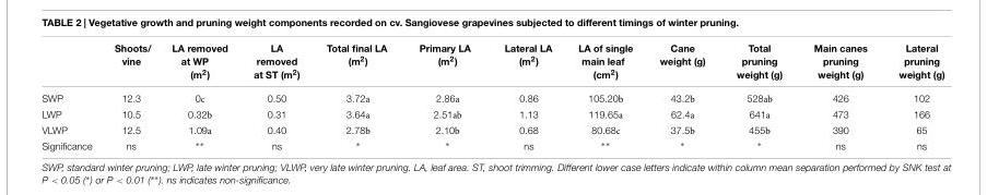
<table><thead><tr><td></td><td>Shoots/ vine</td><td>LA removed at WP (m<sup>2</sup>)</td><td>LA removed at ST (m<sup>2</sup>)</td><td>Total final LA (m<sup>2</sup>)</td><td>Primary LA (m<sup>2</sup>)</td><td>Lateral LA (m<sup>2</sup>)</td><td>LA of single main leaf (cm<sup>2</sup>)</td><td>Cane weight (g)</td><td>Total pruning weight (g)</td><td>Main canes pruning weight (g)</td><td>Lateral pruning weight (g)</td></tr></thead><tbody><tr><td>SWP</td><td>12.3</td><td>0c</td><td>0.50</td><td>3.72a</td><td>2.86a</td><td>0.86</td><td>105.20b</td><td>43.2b</td><td>528ab</td><td>426</td><td>102</td></tr><tr><td>LWP</td><td>10.5</td><td>0.32b</td><td>0.31</td><td>3.64a</td><td>2.51ab</td><td>1.13</td><td>119.65a</td><td>62.4a</td><td>641a</td><td>473</td><td>166</td></tr><tr><td>VLWP</td><td>12.5</td><td>1.09a</td><td>0.40</td><td>2.78b</td><td>2.10b</td><td>0.68</td><td>80.68c</td><td>37.5b</td><td>455b</td><td>390</td><td>65</td></tr><tr><td>Significance</td><td>ns</td><td>∗∗</td><td>ns</td><td>∗</td><td>∗</td><td>ns</td><td>∗∗</td><td>∗</td><td>∗</td><td>ns</td><td>ns</td></tr></tbody></table>